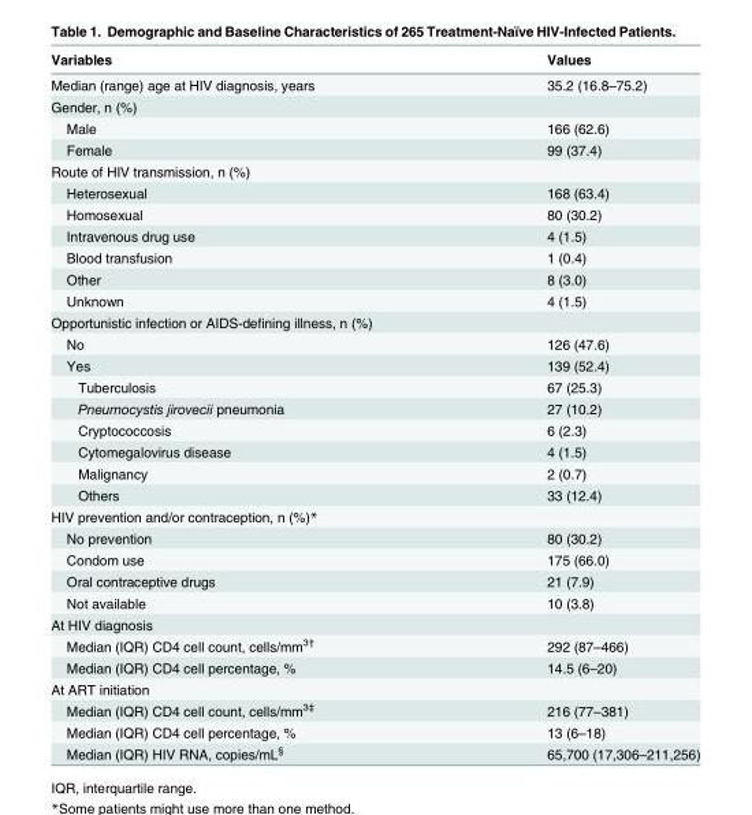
<table><thead><tr><td>Variables</td><td>Values</td></tr></thead><tbody><tr><td>Median (range) age at HIV diagnosis, years</td><td>35.2 (16.8–75.2)</td></tr><tr><td colspan="2">Gender, n (%)</td></tr><tr><td>Male</td><td>166 (62.6)</td></tr><tr><td>Female</td><td>99 (37.4)</td></tr><tr><td colspan="2">Route of HIV transmission, n (%)</td></tr><tr><td>Heterosexual</td><td>168 (63.4)</td></tr><tr><td>Homosexual</td><td>80 (30.2)</td></tr><tr><td>Intravenous drug use</td><td>4 (1.5)</td></tr><tr><td>Blood transfusion</td><td>1 (0.4)</td></tr><tr><td>Other</td><td>8 (3.0)</td></tr><tr><td>Unknown</td><td>4 (1.5)</td></tr><tr><td colspan="2">Opportunistic infection or AIDS-defining illness, n (%)</td></tr><tr><td>No</td><td>126 (47.6)</td></tr><tr><td>Yes</td><td>139 (52.4)</td></tr><tr><td>Tuberculosis</td><td>67 (25.3)</td></tr><tr><td>Pneumocystis jirovecii pneumonia</td><td>27 (10.2)</td></tr><tr><td>Cryptococcosis</td><td>6 (2.3)</td></tr><tr><td>Cytomegalovirus disease</td><td>4 (1.5)</td></tr><tr><td>Malignancy</td><td>2 (0.7)</td></tr><tr><td>Others</td><td>33 (12.4)</td></tr><tr><td colspan="2">HIV prevention and/or contraception, n (%)*</td></tr><tr><td>No prevention</td><td>80 (30.2)</td></tr><tr><td>Condom use</td><td>175 (66.0)</td></tr><tr><td>Oral contraceptive drugs</td><td>21 (7.9)</td></tr><tr><td>Not available</td><td>10 (3.8)</td></tr><tr><td colspan="2">At HIV diagnosis</td></tr><tr><td>Median (IQR) CD4 cell count, cells/mm<sup>3†</sup></td><td>292 (87–466)</td></tr><tr><td>Median (IQR) CD4 cell percentage, %</td><td>14.5 (6–20)</td></tr><tr><td colspan="2">At ART initiation</td></tr><tr><td>Median (IQR) CD4 cell count, cells/mm<sup>3‡</sup></td><td>216 (77–381)</td></tr><tr><td>Median (IQR) CD4 cell percentage, %</td><td>13 (6–18)</td></tr><tr><td>Median (IQR) HIV RNA, copies/mL<sup>§</sup></td><td>65,700 (17,306–211,256)</td></tr></tbody></table>